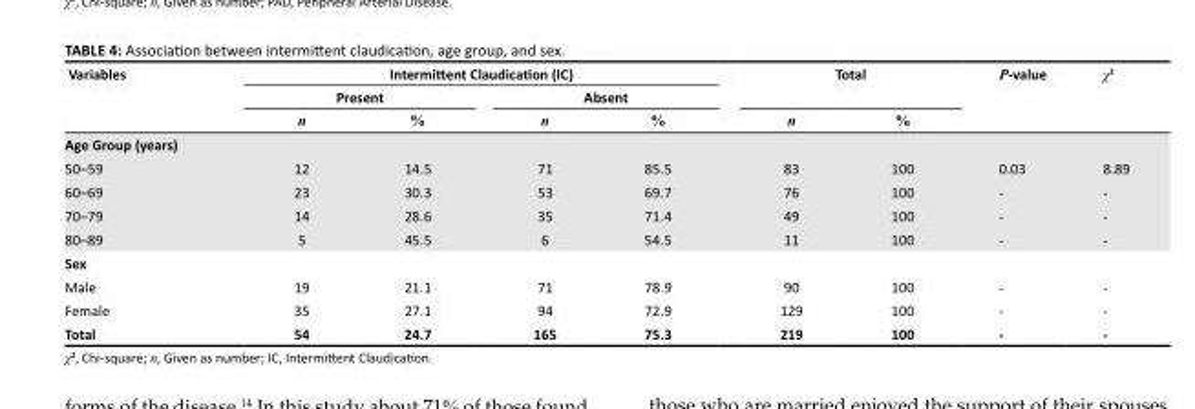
<table><thead><tr><td rowspan="3">Variables</td><td colspan="4">Intermittent Claudication (IC)</td><td colspan="2">Total</td><td rowspan="3">P-value</td><td rowspan="3">χ<sup>2</sup></td></tr><tr><td colspan="2">Present</td><td colspan="2">Absent</td><td rowspan="2">n</td><td rowspan="2">%</td></tr><tr><td>n</td><td>%</td><td>n</td><td>%</td></tr></thead><tbody><tr><td colspan="9">Age Group (years)</td></tr><tr><td>50–59</td><td>12</td><td>14.5</td><td>71</td><td>85.5</td><td>83</td><td>100</td><td>0.03</td><td>8.89</td></tr><tr><td>60–69</td><td>23</td><td>30.3</td><td>53</td><td>69.7</td><td>76</td><td>100</td><td>-</td><td>-</td></tr><tr><td>70–79</td><td>14</td><td>28.6</td><td>35</td><td>71.4</td><td>49</td><td>100</td><td>-</td><td>-</td></tr><tr><td>80–89</td><td>5</td><td>45.5</td><td>6</td><td>54.5</td><td>11</td><td>100</td><td>-</td><td>-</td></tr><tr><td colspan="9">Sex</td></tr><tr><td>Male</td><td>19</td><td>21.1</td><td>71</td><td>78.9</td><td>90</td><td>100</td><td>-</td><td>-</td></tr><tr><td>Female</td><td>35</td><td>27.1</td><td>94</td><td>72.9</td><td>129</td><td>100</td><td>-</td><td>-</td></tr><tr><td>Total</td><td>54</td><td>24.7</td><td>165</td><td>75.3</td><td>219</td><td>100</td><td>-</td><td>-</td></tr></tbody></table>